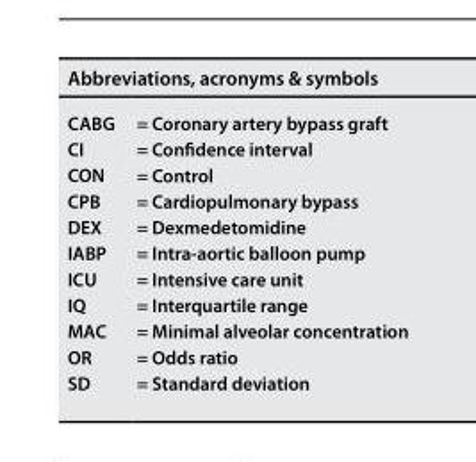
<table><thead><tr><td colspan="2">Abbreviations, acronyms &amp; symbols</td></tr><tr><td>CABG</td><td>= Coronary artery bypass graft</td></tr></thead><tbody><tr><td>CI</td><td>= Confidence interval</td></tr><tr><td>CON</td><td>= Control</td></tr><tr><td>CPB</td><td>= Cardiopulmonary bypass</td></tr><tr><td>DEX</td><td>= Dexmedetomidine</td></tr><tr><td>IABP</td><td>= Intra-aortic balloon pump</td></tr><tr><td>ICU</td><td>= Intensive care unit</td></tr><tr><td>IQ</td><td>= Interquartile range</td></tr><tr><td>MAC</td><td>= Minimal alveolar concentration</td></tr><tr><td>OR</td><td>= Odds ratio</td></tr><tr><td>SD</td><td>= Standard deviation</td></tr></tbody></table>